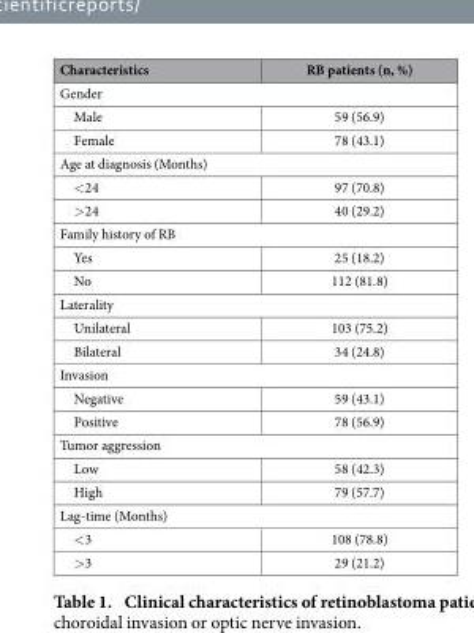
<table><thead><tr><td>Characteristics</td><td>RB patients (n, %)</td></tr></thead><tbody><tr><td colspan="2">Gender</td></tr><tr><td>Male</td><td>59 (56.9)</td></tr><tr><td>Female</td><td>78 (43.1)</td></tr><tr><td colspan="2">Age at diagnosis (Months)</td></tr><tr><td>&lt; 24</td><td>97 (70.8)</td></tr><tr><td>&gt; 24</td><td>40 (29.2)</td></tr><tr><td colspan="2">Family history of RB</td></tr><tr><td>Yes</td><td>25 (18.2)</td></tr><tr><td>No</td><td>112 (81.8)</td></tr><tr><td colspan="2">Laterality</td></tr><tr><td>Unilateral</td><td>103 (75.2)</td></tr><tr><td>Bilateral</td><td>34 (24.8)</td></tr><tr><td colspan="2">Invasion</td></tr><tr><td>Negative</td><td>59 (43.1)</td></tr><tr><td>Positive</td><td>78 (56.9)</td></tr><tr><td colspan="2">Tumor aggression</td></tr><tr><td>Low</td><td>58 (42.3)</td></tr><tr><td>High</td><td>79 (57.7)</td></tr><tr><td colspan="2">Lag-time (Months)</td></tr><tr><td>&lt; 3</td><td>108 (78.8)</td></tr><tr><td>&gt; 3</td><td>29 (21.2)</td></tr></tbody></table>